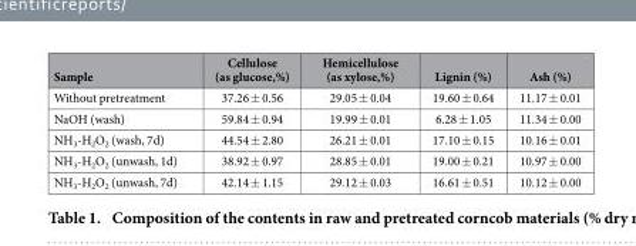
<table><thead><tr><td>Sample</td><td>Cellulose (as glucose,%)</td><td>Hemicellulose (as xylose,%)</td><td>Lignin (%)</td><td>Ash (%)</td></tr></thead><tbody><tr><td>Without pretreatment</td><td>37.26 ± 0.56</td><td>29.05 ± 0.04</td><td>19.60 ± 0.64</td><td>11.17 ± 0.01</td></tr><tr><td>NaOH (wash)</td><td>59.84 ± 0.94</td><td>19.99 ± 0.01</td><td>6.28 ± 1.05</td><td>11.34 ± 0.00</td></tr><tr><td>NH<sub>3</sub>-H<sub>2</sub>O<sub>2</sub> (wash, 7d)</td><td>44.54 ± 2.80</td><td>26.21 ± 0.01</td><td>17.10 ± 0.15</td><td>10.16 ± 0.01</td></tr><tr><td>NH<sub>3</sub>-H<sub>2</sub>O<sub>2</sub> (unwash, 1d)</td><td>38.92 ± 0.97</td><td>28.85 ± 0.01</td><td>19.00 ± 0.21</td><td>10.97 ± 0.00</td></tr><tr><td>NH<sub>3</sub>-H<sub>2</sub>O<sub>2</sub> (unwash, 7d)</td><td>42.14 ± 1.15</td><td>29.12 ± 0.03</td><td>16.61 ± 0.51</td><td>10.12 ± 0.00</td></tr></tbody></table>